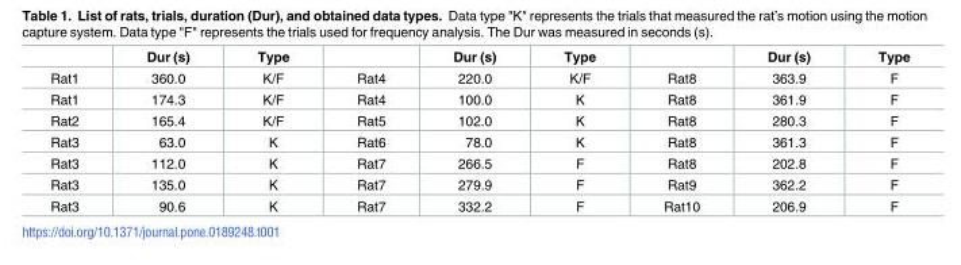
<table><thead><tr><td></td><td>Dur (s)</td><td>Type</td><td></td><td>Dur (s)</td><td>Type</td><td></td><td>Dur (s)</td><td>Type</td></tr></thead><tbody><tr><td>Rat1</td><td>360.0</td><td>K/F</td><td>Rat4</td><td>220.0</td><td>K/F</td><td>Rat8</td><td>363.9</td><td>F</td></tr><tr><td>Rat1</td><td>174.3</td><td>K/F</td><td>Rat4</td><td>100.0</td><td>K</td><td>Rat8</td><td>361.9</td><td>F</td></tr><tr><td>Rat2</td><td>165.4</td><td>K/F</td><td>Rat5</td><td>102.0</td><td>K</td><td>Rat8</td><td>280.3</td><td>F</td></tr><tr><td>Rat3</td><td>63.0</td><td>K</td><td>Rat6</td><td>78.0</td><td>K</td><td>Rat8</td><td>361.3</td><td>F</td></tr><tr><td>Rat3</td><td>112.0</td><td>K</td><td>Rat7</td><td>266.5</td><td>F</td><td>Rat8</td><td>202.8</td><td>F</td></tr><tr><td>Rat3</td><td>135.0</td><td>K</td><td>Rat7</td><td>279.9</td><td>F</td><td>Rat9</td><td>362.2</td><td>F</td></tr><tr><td>Rat3</td><td>90.6</td><td>K</td><td>Rat7</td><td>332.2</td><td>F</td><td>Rat10</td><td>206.9</td><td>F</td></tr></tbody></table>